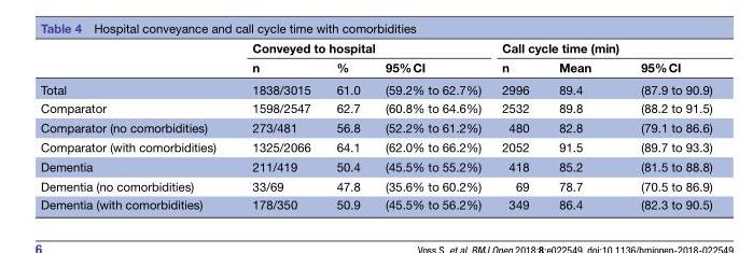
<table><thead><tr><td rowspan="2"></td><td colspan="3">Conveyed to hospital</td><td colspan="3">Call cycle time (min)</td></tr><tr><td>n</td><td>%</td><td>95% CI</td><td>n</td><td>Mean</td><td>95% CI</td></tr></thead><tbody><tr><td>Total</td><td>1838/3015</td><td>61.0</td><td>(59.2% to 62.7%)</td><td>2996</td><td>89.4</td><td>(87.9 to 90.9)</td></tr><tr><td>Comparator</td><td>1598/2547</td><td>62.7</td><td>(60.8% to 64.6%)</td><td>2532</td><td>89.8</td><td>(88.2 to 91.5)</td></tr><tr><td>Comparator (no comorbidities)</td><td>273/481</td><td>56.8</td><td>(52.2% to 61.2%)</td><td>480</td><td>82.8</td><td>(79.1 to 86.6)</td></tr><tr><td>Comparator (with comorbidities)</td><td>1325/2066</td><td>64.1</td><td>(62.0% to 66.2%)</td><td>2052</td><td>91.5</td><td>(89.7 to 93.3)</td></tr><tr><td>Dementia</td><td>211/419</td><td>50.4</td><td>(45.5% to 55.2%)</td><td>418</td><td>85.2</td><td>(81.5 to 88.8)</td></tr><tr><td>Dementia (no comorbidities)</td><td>33/69</td><td>47.8</td><td>(35.6% to 60.2%)</td><td>69</td><td>78.7</td><td>(70.5 to 86.9)</td></tr><tr><td>Dementia (with comorbidities)</td><td>178/350</td><td>50.9</td><td>(45.5% to 56.2%)</td><td>349</td><td>86.4</td><td>(82.3 to 90.5)</td></tr></tbody></table>